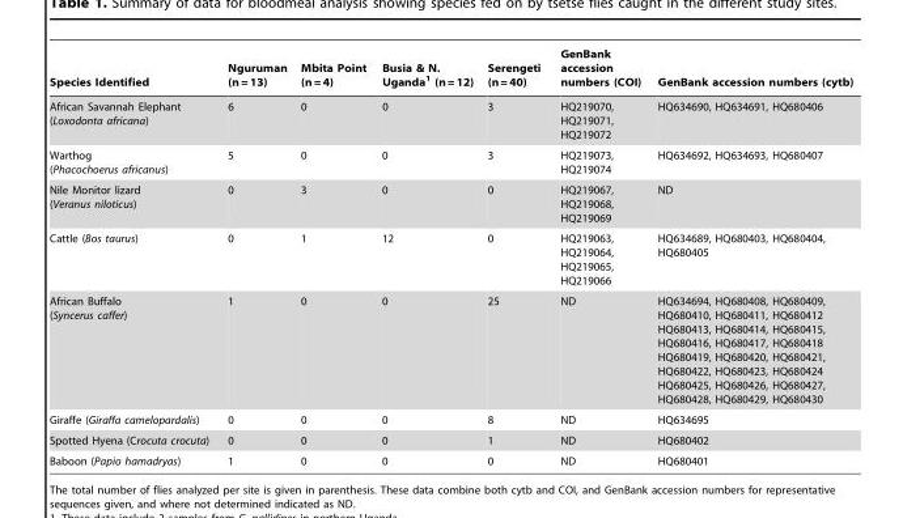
<table><thead><tr><td>Species Identified</td><td>Nguruman (n = 13)</td><td>Mbita Point (n = 4)</td><td>Busia &amp; N. Uganda<sup>1</sup> (n = 12)</td><td>Serengeti (n = 40)</td><td>GenBank accession numbers (COI)</td><td>GenBank accession numbers (cytb)</td></tr></thead><tbody><tr><td>African Savannah Elephant (Loxodonta africana)</td><td>6</td><td>0</td><td>0</td><td>3</td><td>HQ219070, HQ219071, HQ219072</td><td>HQ634690, HQ634691, HQ680406</td></tr><tr><td>Warthog (Phacochoerus africanus)</td><td>5</td><td>0</td><td>0</td><td>3</td><td>HQ219073, HQ219074</td><td>HQ634692, HQ634693, HQ680407</td></tr><tr><td>Nile Monitor lizard (Veranus niloticus)</td><td>0</td><td>3</td><td>0</td><td>0</td><td>HQ219067, HQ219068, HQ219069</td><td>ND</td></tr><tr><td>Cattle (Bos taurus)</td><td>0</td><td>1</td><td>12</td><td>0</td><td>HQ219063, HQ219064, HQ219065, HQ219066</td><td>HQ634689, HQ680403, HQ680404, HQ680405</td></tr><tr><td>African Buffalo (Syncerus caffer)</td><td>1</td><td>0</td><td>0</td><td>25</td><td>ND</td><td>HQ634694, HQ680408, HQ680409, HQ680410, HQ680411, HQ680412 HQ680413, HQ680414, HQ680415, HQ680416, HQ680417, HQ680418 HQ680419, HQ680420, HQ680421, HQ680422, HQ680423, HQ680424 HQ680425, HQ680426, HQ680427, HQ680428, HQ680429, HQ680430</td></tr><tr><td>Giraffe (Giraffa camelopardalis)</td><td>0</td><td>0</td><td>0</td><td>8</td><td>ND</td><td>HQ634695</td></tr><tr><td>Spotted Hyena (Crocuta crocuta)</td><td>0</td><td>0</td><td>0</td><td>1</td><td>ND</td><td>HQ680402</td></tr><tr><td>Baboon (Papio hamadryas)</td><td>1</td><td>0</td><td>0</td><td>0</td><td>ND</td><td>HQ680401</td></tr></tbody></table>